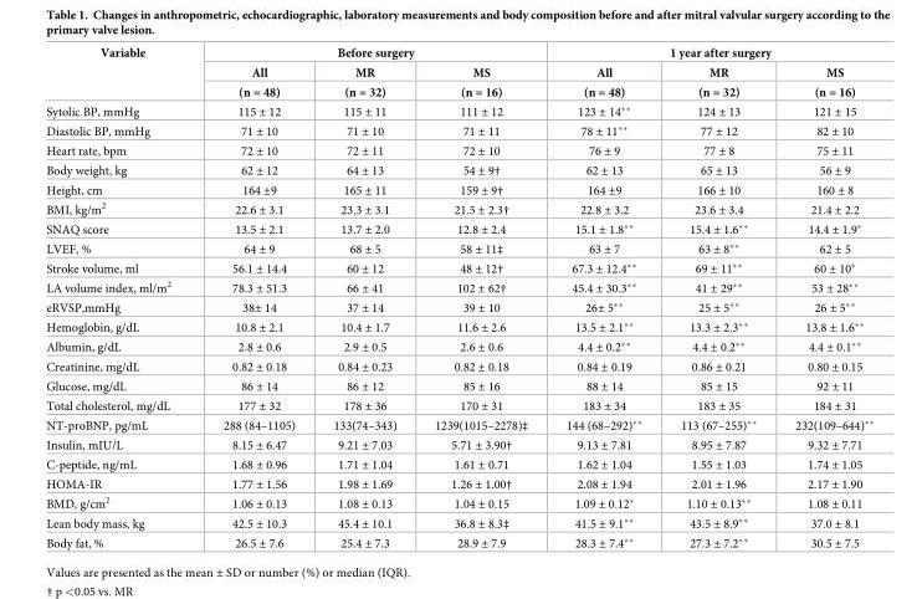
<table><thead><tr><td rowspan="3">Variable</td><td colspan="3">Before surgery</td><td colspan="3">1 year after surgery</td></tr><tr><td rowspan="2">All (n = 48)</td><td rowspan="2">MR (n = 32)</td><td rowspan="2">MS (n = 16)</td><td rowspan="2">All (n = 48)</td><td rowspan="2">MR (n = 32)</td><td rowspan="2">MS (n = 16)</td></tr><tr></tr></thead><tbody><tr><td>Sytolic BP, mmHg</td><td>115 ± 12</td><td>115 ± 11</td><td>111 ± 12</td><td>123 ± 14**</td><td>124 ± 13</td><td>121 ± 15</td></tr><tr><td>Diastolic BP, mmHg</td><td>71 ± 10</td><td>71 ± 10</td><td>71 ± 11</td><td>78 ± 11**</td><td>77 ± 12</td><td>82 ± 10</td></tr><tr><td>Heart rate, bpm</td><td>72 ± 10</td><td>72 ± 11</td><td>72 ± 10</td><td>76 ± 9</td><td>77 ± 8</td><td>75 ± 11</td></tr><tr><td>Body weight, kg</td><td>62 ± 12</td><td>64 ± 13</td><td>54 ± 9†</td><td>62 ± 13</td><td>65 ± 13</td><td>56 ± 9</td></tr><tr><td>Height, cm</td><td>164 ±9</td><td>165 ± 11</td><td>159 ± 9†</td><td>164 ±9</td><td>166 ± 10</td><td>160 ± 8</td></tr><tr><td>BMI, kg/m<sup>2</sup></td><td>22.6 ± 3.1</td><td>23.3 ± 3.1</td><td>21.5 ± 2.3†</td><td>22.8 ± 3.2</td><td>23.6 ± 3.4</td><td>21.4 ± 2.2</td></tr><tr><td>SNAQ score</td><td>13.5 ± 2.1</td><td>13.7 ± 2.0</td><td>12.8 ± 2.4</td><td>15.1 ± 1.8**</td><td>15.4 ± 1.6**</td><td>14.4 ± 1.9*</td></tr><tr><td>LVEF, %</td><td>64 ± 9</td><td>68 ± 5</td><td>58 ± 11‡</td><td>63 ± 7</td><td>63 ± 8**</td><td>62 ± 5</td></tr><tr><td>Stroke volume, ml</td><td>56.1 ± 14.4</td><td>60 ± 12</td><td>48 ± 12†</td><td>67.3 ± 12.4**</td><td>69 ± 11**</td><td>60 ± 10*</td></tr><tr><td>LA volume index, ml/m<sup>2</sup></td><td>78.3 ± 51.3</td><td>66 ± 41</td><td>102 ± 62†</td><td>45.4 ± 30.3**</td><td>41 ± 29**</td><td>53 ± 28**</td></tr><tr><td>eRVSP,mmHg</td><td>38± 14</td><td>37 ± 14</td><td>39 ± 10</td><td>26± 5**</td><td>25 ± 5**</td><td>26 ± 5**</td></tr><tr><td>Hemoglobin, g/dL</td><td>10.8 ± 2.1</td><td>10.4 ± 1.7</td><td>11.6 ± 2.6</td><td>13.5 ± 2.1**</td><td>13.3 ± 2.3**</td><td>13.8 ± 1.6**</td></tr><tr><td>Albumin, g/dL</td><td>2.8 ± 0.6</td><td>2.9 ± 0.5</td><td>2.6 ± 0.6</td><td>4.4 ± 0.2**</td><td>4.4 ± 0.2**</td><td>4.4 ± 0.1**</td></tr><tr><td>Creatinine, mg/dL</td><td>0.82 ± 0.18</td><td>0.84 ± 0.23</td><td>0.82 ± 0.18</td><td>0.84 ± 0.19</td><td>0.86 ± 0.21</td><td>0.80 ± 0.15</td></tr><tr><td>Glucose, mg/dL</td><td>86 ± 14</td><td>86 ± 12</td><td>85 ± 16</td><td>88 ± 14</td><td>85 ± 15</td><td>92 ± 11</td></tr><tr><td>Total cholesterol, mg/dL</td><td>177 ± 32</td><td>178 ± 36</td><td>170 ± 31</td><td>183 ± 34</td><td>183 ± 35</td><td>184 ± 31</td></tr><tr><td>NT-proBNP, pg/mL</td><td>288 (84–1105)</td><td>133(74–343)</td><td>1239(1015–2278)‡</td><td>144 (68–292)**</td><td>113 (67–255)**</td><td>232(109–644)**</td></tr><tr><td>Insulin, mIU/L</td><td>8.15 ± 6.47</td><td>9.21 ± 7.03</td><td>5.71 ± 3.90†</td><td>9.13 ± 7.81</td><td>8.95 ± 7.87</td><td>9.32 ± 7.71</td></tr><tr><td>C-peptide, ng/mL</td><td>1.68 ± 0.96</td><td>1.71 ± 1.04</td><td>1.61 ± 0.71</td><td>1.62 ± 1.04</td><td>1.55 ± 1.03</td><td>1.74 ± 1.05</td></tr><tr><td>HOMA-IR</td><td>1.77 ± 1.56</td><td>1.98 ± 1.69</td><td>1.26 ± 1.00†</td><td>2.08 ± 1.94</td><td>2.01 ± 1.96</td><td>2.17 ± 1.90</td></tr><tr><td>BMD, g/cm<sup>2</sup></td><td>1.06 ± 0.13</td><td>1.08 ± 0.13</td><td>1.04 ± 0.15</td><td>1.09 ± 0.12*</td><td>1.10 ± 0.13**</td><td>1.08 ± 0.11</td></tr><tr><td>Lean body mass, kg</td><td>42.5 ± 10.3</td><td>45.4 ± 10.1</td><td>36.8 ± 8.3‡</td><td>41.5 ± 9.1**</td><td>43.5 ± 8.9**</td><td>37.0 ± 8.1</td></tr><tr><td>Body fat, %</td><td>26.5 ± 7.6</td><td>25.4 ± 7.3</td><td>28.9 ± 7.9</td><td>28.3 ± 7.4**</td><td>27.3 ± 7.2**</td><td>30.5 ± 7.5</td></tr></tbody></table>